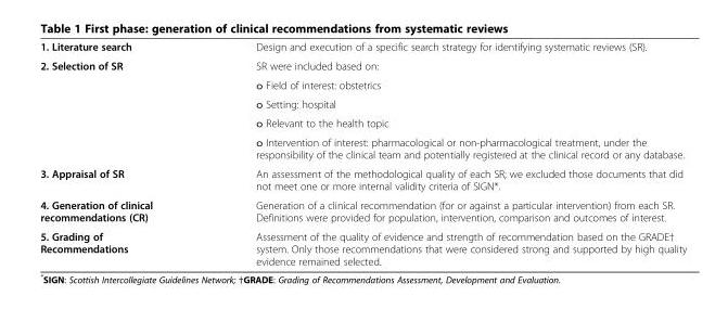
<table><tbody><tr><td>1. Literature search</td><td>Design and execution of a specific search strategy for identifying systematic reviews (SR).</td></tr><tr><td rowspan="5">2. Selection of SR</td><td>SR were included based on:</td></tr><tr><td>o Field of interest: obstetrics</td></tr><tr><td>o Setting: hospital</td></tr><tr><td>o Relevant to the health topic</td></tr><tr><td>o Intervention of interest: pharmacological or non-pharmacological treatment, under the responsibility of the clinical team and potentially registered at the clinical record or any database.</td></tr><tr><td>3. Appraisal of SR</td><td>An assessment of the methodological quality of each SR; we excluded those documents that did not meet one or more internal validity criteria of SIGN*.</td></tr><tr><td>4. Generation of clinical recommendations (CR)</td><td>Generation of a clinical recommendation (for or against a particular intervention) from each SR. Definitions were provided for population, intervention, comparison and outcomes of interest.</td></tr><tr><td>5. Grading of Recommendations</td><td>Assessment of the quality of evidence and strength of recommendation based on the GRADE† system. Only those recommendations that were considered strong and supported by high quality evidence remained selected.</td></tr></tbody></table>